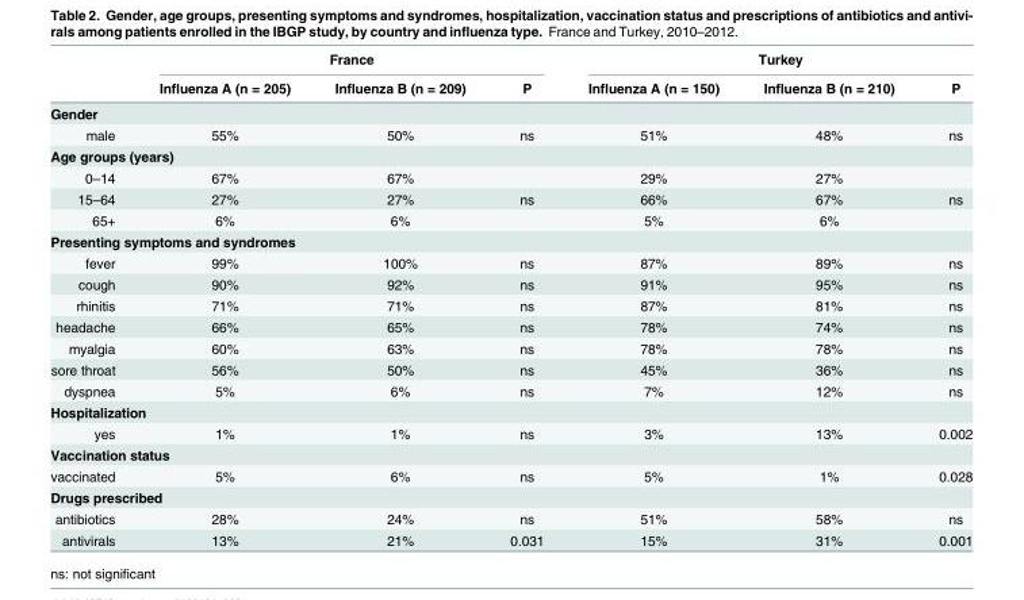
<table><thead><tr><td rowspan="2"></td><td colspan="3">France</td><td colspan="3">Turkey</td></tr><tr><td>Influenza A (n = 205)</td><td>Influenza B (n = 209)</td><td>P</td><td>Influenza A (n = 150)</td><td>Influenza B (n = 210)</td><td>P</td></tr></thead><tbody><tr><td colspan="7">Gender</td></tr><tr><td>male</td><td>55%</td><td>50%</td><td>ns</td><td>51%</td><td>48%</td><td>ns</td></tr><tr><td colspan="7">Age groups (years)</td></tr><tr><td>0–14</td><td>67%</td><td>67%</td><td></td><td>29%</td><td>27%</td><td></td></tr><tr><td>15–64</td><td>27%</td><td>27%</td><td>ns</td><td>66%</td><td>67%</td><td>ns</td></tr><tr><td>65+</td><td>6%</td><td>6%</td><td></td><td>5%</td><td>6%</td><td></td></tr><tr><td colspan="7">Presenting symptoms and syndromes</td></tr><tr><td>fever</td><td>99%</td><td>100%</td><td>ns</td><td>87%</td><td>89%</td><td>ns</td></tr><tr><td>cough</td><td>90%</td><td>92%</td><td>ns</td><td>91%</td><td>95%</td><td>ns</td></tr><tr><td>rhinitis</td><td>71%</td><td>71%</td><td>ns</td><td>87%</td><td>81%</td><td>ns</td></tr><tr><td>headache</td><td>66%</td><td>65%</td><td>ns</td><td>78%</td><td>74%</td><td>ns</td></tr><tr><td>myalgia</td><td>60%</td><td>63%</td><td>ns</td><td>78%</td><td>78%</td><td>ns</td></tr><tr><td>sore throat</td><td>56%</td><td>50%</td><td>ns</td><td>45%</td><td>36%</td><td>ns</td></tr><tr><td>dyspnea</td><td>5%</td><td>6%</td><td>ns</td><td>7%</td><td>12%</td><td>ns</td></tr><tr><td colspan="7">Hospitalization</td></tr><tr><td>yes</td><td>1%</td><td>1%</td><td>ns</td><td>3%</td><td>13%</td><td>0.002</td></tr><tr><td colspan="7">Vaccination status</td></tr><tr><td>vaccinated</td><td>5%</td><td>6%</td><td>ns</td><td>5%</td><td>1%</td><td>0.028</td></tr><tr><td colspan="7">Drugs prescribed</td></tr><tr><td>antibiotics</td><td>28%</td><td>24%</td><td>ns</td><td>51%</td><td>58%</td><td>ns</td></tr><tr><td>antivirals</td><td>13%</td><td>21%</td><td>0.031</td><td>15%</td><td>31%</td><td>0.001</td></tr></tbody></table>